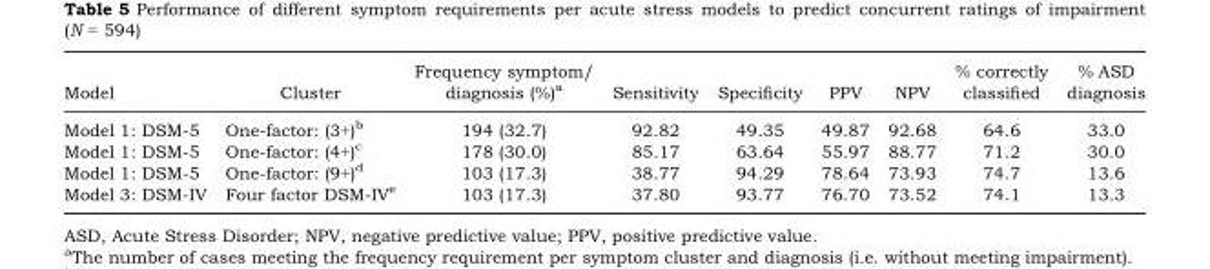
<table><thead><tr><td>Model</td><td>Cluster</td><td>Frequency symptom/ diagnosis (%)<sup>a</sup></td><td>Sensitivity</td><td>Specificity</td><td>PPV</td><td>NPV</td><td>% correctly classified</td><td>% ASD diagnosis</td></tr></thead><tbody><tr><td>Model 1: DSM-5</td><td>One-factor: (3+)<sup>b</sup></td><td>194 (32.7)</td><td>92.82</td><td>49.35</td><td>49.87</td><td>92.68</td><td>64.6</td><td>33.0</td></tr><tr><td>Model 1: DSM-5</td><td>One-factor: (4+)<sup>c</sup></td><td>178 (30.0)</td><td>85.17</td><td>63.64</td><td>55.97</td><td>88.77</td><td>71.2</td><td>30.0</td></tr><tr><td>Model 1: DSM-5</td><td>One-factor: (9+)<sup>d</sup></td><td>103 (17.3)</td><td>38.77</td><td>94.29</td><td>78.64</td><td>73.93</td><td>74.7</td><td>13.6</td></tr><tr><td>Model 3: DSM-IV</td><td>Four factor DSM-IV<sup>e</sup></td><td>103 (17.3)</td><td>37.80</td><td>93.77</td><td>76.70</td><td>73.52</td><td>74.1</td><td>13.3</td></tr></tbody></table>